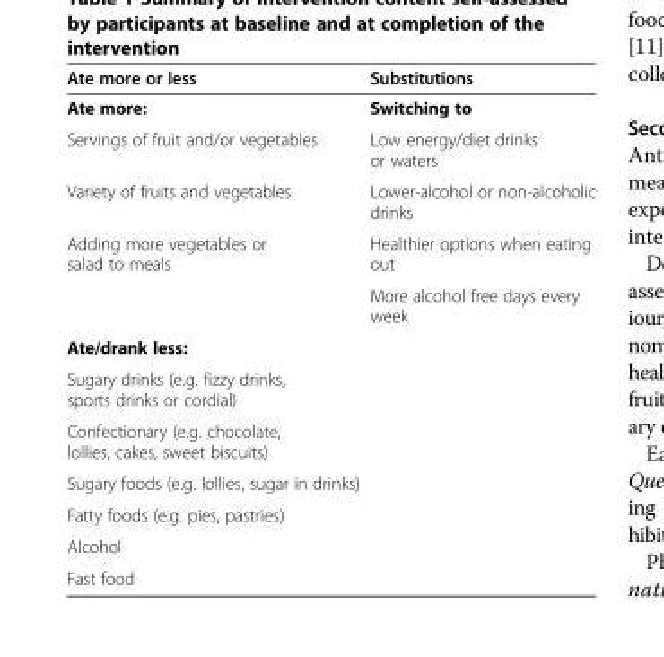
<table><thead><tr><td>Ate more or less</td><td>Substitutions</td></tr></thead><tbody><tr><td>Ate more:</td><td>Switching to</td></tr><tr><td>Servings of fruit and/or vegetables</td><td>Low energy/diet drinks or waters</td></tr><tr><td>Variety of fruits and vegetables</td><td>Lower-alcohol or non-alcoholic drinks</td></tr><tr><td rowspan="2">Adding more vegetables or salad to meals</td><td>Healthier options when eating out</td></tr><tr><td>More alcohol free days every week</td></tr><tr><td colspan="2">Ate/drank less:</td></tr><tr><td colspan="2">Sugary drinks (e.g. fizzy drinks, sports drinks or cordial)</td></tr><tr><td colspan="2">Confectionary (e.g. chocolate, lollies, cakes, sweet biscuits)</td></tr><tr><td colspan="2">Sugary foods (e.g. lollies, sugar in drinks)</td></tr><tr><td colspan="2">Fatty foods (e.g. pies, pastries)</td></tr><tr><td colspan="2">Alcohol</td></tr><tr><td>Fast food</td><td></td></tr></tbody></table>